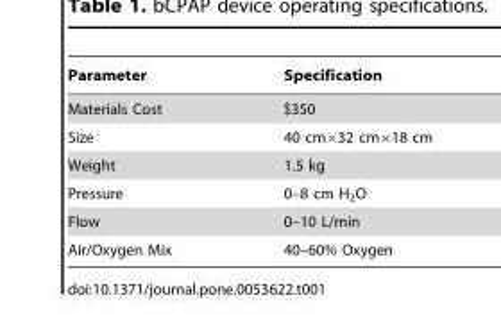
<table><thead><tr><td>Parameter</td><td>Specification</td></tr></thead><tbody><tr><td>Materials Cost</td><td>$350</td></tr><tr><td>Size</td><td>40 cm×32 cm×18 cm</td></tr><tr><td>Weight</td><td>1.5 kg</td></tr><tr><td>Pressure</td><td>0–8 cm H<sub>2</sub>O</td></tr><tr><td>Flow</td><td>0–10 L/min</td></tr><tr><td>Air/Oxygen Mix</td><td>40–60% Oxygen</td></tr></tbody></table>